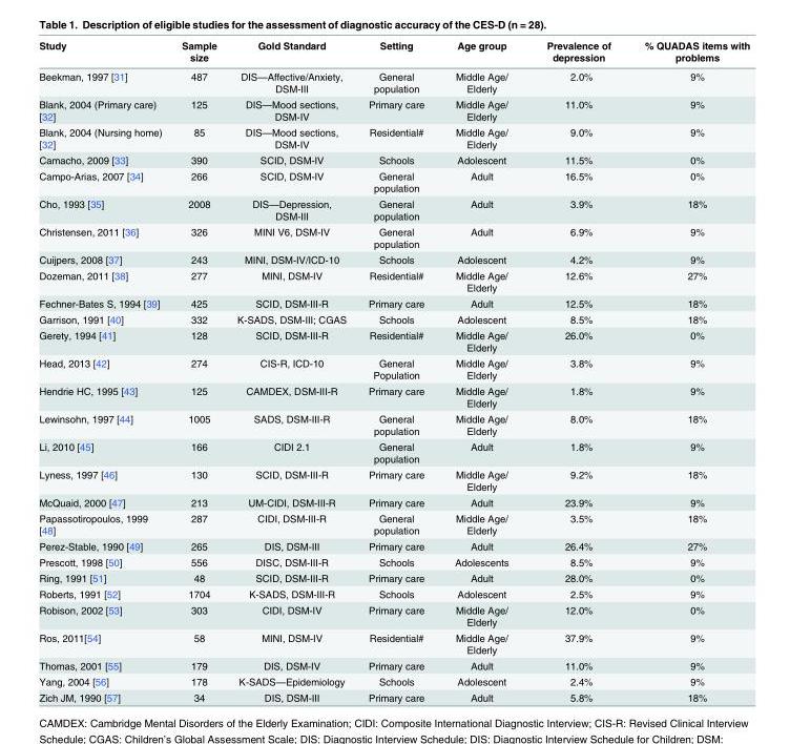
<table><thead><tr><td>Study</td><td>Sample size</td><td>Gold Standard</td><td>Setting</td><td>Age group</td><td>Prevalence of depression</td><td>% QUADAS items with problems</td></tr></thead><tbody><tr><td>Beekman, 1997 [31]</td><td>487</td><td>DIS—Affective/Anxiety, DSM-III</td><td>General population</td><td>Middle Age/ Elderly</td><td>2.0%</td><td>9%</td></tr><tr><td>Blank, 2004 (Primary care) [32]</td><td>125</td><td>DIS—Mood sections, DSM-IV</td><td>Primary care</td><td>Middle Age/ Elderly</td><td>11.0%</td><td>9%</td></tr><tr><td>Blank, 2004 (Nursing home) [32]</td><td>85</td><td>DIS—Mood sections, DSM-IV</td><td>Residential#</td><td>Middle Age/ Elderly</td><td>9.0%</td><td>9%</td></tr><tr><td>Camacho, 2009 [33]</td><td>390</td><td>SCID, DSM-IV</td><td>Schools</td><td>Adolescent</td><td>11.5%</td><td>0%</td></tr><tr><td>Campo-Arias, 2007 [34]</td><td>266</td><td>SCID, DSM-IV</td><td>General population</td><td>Adult</td><td>16.5%</td><td>0%</td></tr><tr><td>Cho, 1993 [35]</td><td>2008</td><td>DIS—Depression, DSM-III</td><td>General population</td><td>Adult</td><td>3.9%</td><td>18%</td></tr><tr><td>Christensen, 2011 [36]</td><td>326</td><td>MINI V6, DSM-IV</td><td>General population</td><td>Adult</td><td>6.9%</td><td>9%</td></tr><tr><td>Cuijpers, 2008 [37]</td><td>243</td><td>MINI, DSM-IV/ICD-10</td><td>Schools</td><td>Adolescent</td><td>4.2%</td><td>9%</td></tr><tr><td>Dozeman, 2011 [38]</td><td>277</td><td>MINI, DSM-IV</td><td>Residential#</td><td>Middle Age/ Elderly</td><td>12.6%</td><td>27%</td></tr><tr><td>Fechner-Bates S, 1994 [39]</td><td>425</td><td>SCID, DSM-III-R</td><td>Primary care</td><td>Adult</td><td>12.5%</td><td>18%</td></tr><tr><td>Garrison, 1991 [40]</td><td>332</td><td>K-SADS, DSM-III; CGAS</td><td>Schools</td><td>Adolescent</td><td>8.5%</td><td>18%</td></tr><tr><td>Gerety, 1994 [41]</td><td>128</td><td>SCID, DSM-III-R</td><td>Residential#</td><td>Middle Age/ Elderly</td><td>26.0%</td><td>0%</td></tr><tr><td>Head, 2013 [42]</td><td>274</td><td>CIS-R, ICD-10</td><td>General Population</td><td>Middle Age/ Elderly</td><td>3.8%</td><td>9%</td></tr><tr><td>Hendrie HC, 1995 [43]</td><td>125</td><td>CAMDEX, DSM-III-R</td><td>Primary care</td><td>Middle Age/ Elderly</td><td>1.8%</td><td>9%</td></tr><tr><td>Lewinsohn, 1997 [44]</td><td>1005</td><td>SADS, DSM-III-R</td><td>General population</td><td>Middle Age/ Elderly</td><td>8.0%</td><td>18%</td></tr><tr><td>Li, 2010 [45]</td><td>166</td><td>CIDI 2.1</td><td>General population</td><td>Adult</td><td>1.8%</td><td>9%</td></tr><tr><td>Lyness, 1997 [46]</td><td>130</td><td>SCID, DSM-III-R</td><td>Primary care</td><td>Middle Age/ Elderly</td><td>9.2%</td><td>18%</td></tr><tr><td>McQuaid, 2000 [47]</td><td>213</td><td>UM-CIDI, DSM-III-R</td><td>Primary care</td><td>Adult</td><td>23.9%</td><td>9%</td></tr><tr><td>Papassotiropoulos, 1999 [48]</td><td>287</td><td>CIDI, DSM-III-R</td><td>General population</td><td>Middle Age/ Elderly</td><td>3.5%</td><td>18%</td></tr><tr><td>Perez-Stable, 1990 [49]</td><td>265</td><td>DIS, DSM-III</td><td>Primary care</td><td>Adult</td><td>26.4%</td><td>27%</td></tr><tr><td>Prescott, 1998 [50]</td><td>556</td><td>DISC, DSM-III-R</td><td>Schools</td><td>Adolescents</td><td>8.5%</td><td>9%</td></tr><tr><td>Ring, 1991 [51]</td><td>48</td><td>SCID, DSM-III-R</td><td>Primary care</td><td>Adult</td><td>28.0%</td><td>0%</td></tr><tr><td>Roberts, 1991 [52]</td><td>1704</td><td>K-SADS, DSM-III-R</td><td>Schools</td><td>Adolescent</td><td>2.5%</td><td>9%</td></tr><tr><td>Robison, 2002 [53]</td><td>303</td><td>CIDI, DSM-IV</td><td>Primary care</td><td>Middle Age/ Elderly</td><td>12.0%</td><td>0%</td></tr><tr><td>Ros, 2011[54]</td><td>58</td><td>MINI, DSM-IV</td><td>Residential#</td><td>Middle Age/ Elderly</td><td>37.9%</td><td>9%</td></tr><tr><td>Thomas, 2001 [55]</td><td>179</td><td>DIS, DSM-IV</td><td>Primary care</td><td>Adult</td><td>11.0%</td><td>9%</td></tr><tr><td>Yang, 2004 [56]</td><td>178</td><td>K-SADS—Epidemiology</td><td>Schools</td><td>Adolescent</td><td>2.4%</td><td>9%</td></tr><tr><td>Zich JM, 1990 [57]</td><td>34</td><td>DIS, DSM-III</td><td>Primary care</td><td>Adult</td><td>5.8%</td><td>18%</td></tr></tbody></table>